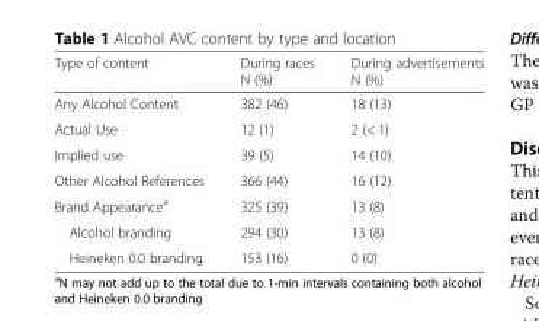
<table><thead><tr><td>Type of content</td><td>During races N (%)</td><td>During advertisements N (%)</td></tr></thead><tbody><tr><td>Any Alcohol Content</td><td>382 (46)</td><td>18 (13)</td></tr><tr><td>Actual Use</td><td>12 (1)</td><td>2 (&lt; 1)</td></tr><tr><td>Implied use</td><td>39 (5)</td><td>14 (10)</td></tr><tr><td>Other Alcohol References</td><td>366 (44)</td><td>16 (12)</td></tr><tr><td>Brand Appearance<sup>a</sup></td><td>325 (39)</td><td>13 (8)</td></tr><tr><td>Alcohol branding</td><td>294 (30)</td><td>13 (8)</td></tr><tr><td>Heineken 0.0 branding</td><td>153 (16)</td><td>0 (0)</td></tr></tbody></table>